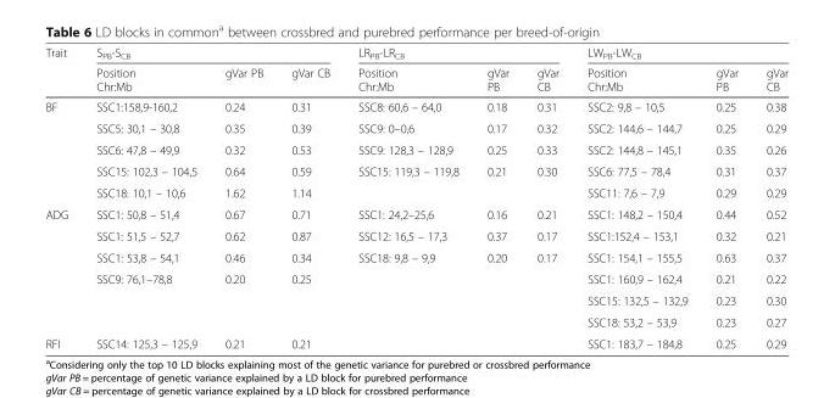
<table><thead><tr><td rowspan="2">Trait</td><td colspan="3">S<sub>PB</sub>-S<sub>CB</sub></td><td colspan="3">LR<sub>PB</sub>-LR<sub>CB</sub></td><td colspan="3">LW<sub>PB</sub>-LW<sub>CB</sub></td></tr><tr><td>Position Chr:Mb</td><td>gVar PB</td><td>gVar CB</td><td>Position Chr:Mb</td><td>gVar PB</td><td>gVar CB</td><td>Position Chr:Mb</td><td>gVar PB</td><td>gVar CB</td></tr></thead><tbody><tr><td rowspan="5">BF</td><td>SSC1:158,9-160,2</td><td>0.24</td><td>0.31</td><td>SSC8: 60,6 – 64,0</td><td>0.18</td><td>0.31</td><td>SSC2: 9,8 – 10,5</td><td>0.25</td><td>0.38</td></tr><tr><td>SSC5: 30,1 – 30,8</td><td>0.35</td><td>0.39</td><td>SSC9: 0–0,6</td><td>0.17</td><td>0.32</td><td>SSC2: 144,6 – 144,7</td><td>0.25</td><td>0.29</td></tr><tr><td>SSC6: 47,8 – 49,9</td><td>0.32</td><td>0.53</td><td>SSC9: 128,3 – 128,9</td><td>0.25</td><td>0.33</td><td>SSC2: 144,8 – 145,1</td><td>0.35</td><td>0.26</td></tr><tr><td>SSC15: 102,3 – 104,5</td><td>0.64</td><td>0.59</td><td>SSC15: 119,3 – 119,8</td><td>0.21</td><td>0.30</td><td>SSC6: 77,5 – 78,4</td><td>0.31</td><td>0.37</td></tr><tr><td>SSC18: 10,1 – 10,6</td><td>1.62</td><td>1.14</td><td></td><td></td><td></td><td>SSC11: 7,6 – 7,9</td><td>0.29</td><td>0.29</td></tr><tr><td rowspan="6">ADG</td><td>SSC1: 50,8 – 51,4</td><td>0.67</td><td>0.71</td><td>SSC1: 24,2–25,6</td><td>0.16</td><td>0.21</td><td>SSC1: 148,2 – 150,4</td><td>0.44</td><td>0.52</td></tr><tr><td>SSC1: 51,5 – 52,7</td><td>0.62</td><td>0.87</td><td>SSC12: 16,5 – 17,3</td><td>0.37</td><td>0.17</td><td>SSC1:152,4 – 153,1</td><td>0.32</td><td>0.21</td></tr><tr><td>SSC1: 53,8 – 54,1</td><td>0.46</td><td>0.34</td><td>SSC18: 9,8 – 9,9</td><td>0.20</td><td>0.17</td><td>SSC1: 154,1 – 155,5</td><td>0.63</td><td>0.37</td></tr><tr><td>SSC9: 76,1–78,8</td><td>0.20</td><td>0.25</td><td></td><td></td><td></td><td>SSC1: 160,9 – 162,4</td><td>0.21</td><td>0.22</td></tr><tr><td></td><td></td><td></td><td></td><td></td><td></td><td>SSC15: 132,5 – 132,9</td><td>0.23</td><td>0.30</td></tr><tr><td></td><td></td><td></td><td></td><td></td><td></td><td>SSC18: 53,2 – 53,9</td><td>0.23</td><td>0.27</td></tr><tr><td>RFI</td><td>SSC14: 125,3 – 125,9</td><td>0.21</td><td>0.21</td><td></td><td></td><td></td><td>SSC1: 183,7 – 184,8</td><td>0.25</td><td>0.29</td></tr></tbody></table>